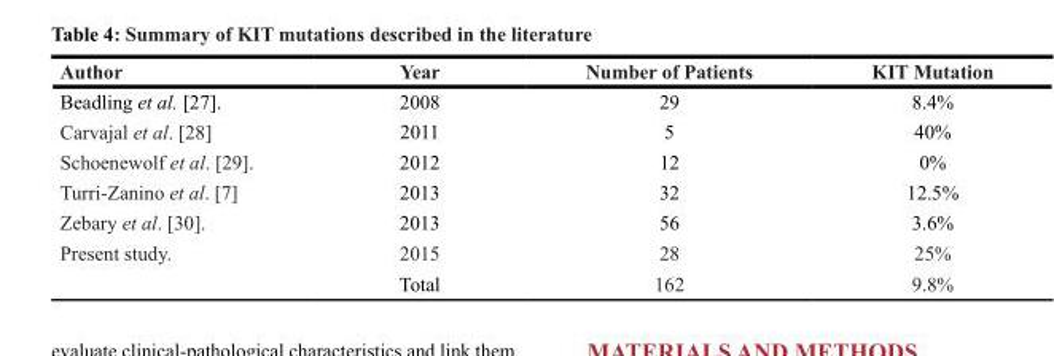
<table><thead><tr><td>Author</td><td>Year</td><td>Number of Patients</td><td>KIT Mutation</td></tr></thead><tbody><tr><td>Beadling et al. [27].</td><td>2008</td><td>29</td><td>8.4%</td></tr><tr><td>Carvajal et al. [28]</td><td>2011</td><td>5</td><td>40%</td></tr><tr><td>Schoenewolf et al. [29].</td><td>2012</td><td>12</td><td>0%</td></tr><tr><td>Turri-Zanino et al. [7]</td><td>2013</td><td>32</td><td>12.5%</td></tr><tr><td>Zebary et al. [30].</td><td>2013</td><td>56</td><td>3.6%</td></tr><tr><td rowspan="2">Present study.</td><td>2015</td><td>28</td><td>25%</td></tr><tr><td>Total</td><td>162</td><td>9.8%</td></tr></tbody></table>